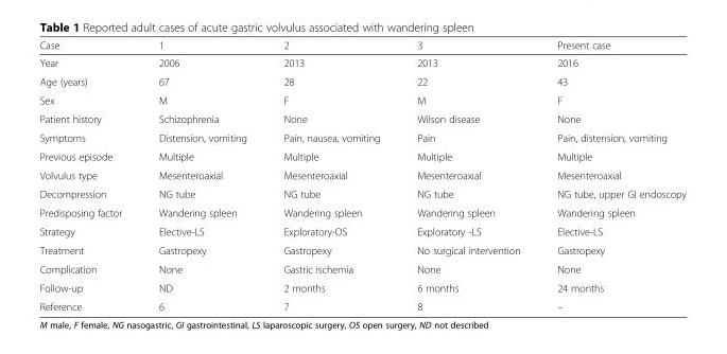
<table><thead><tr><td>Case</td><td>1</td><td>2</td><td>3</td><td>Present case</td></tr></thead><tbody><tr><td>Year</td><td>2006</td><td>2013</td><td>2013</td><td>2016</td></tr><tr><td>Age (years)</td><td>67</td><td>28</td><td>22</td><td>43</td></tr><tr><td>Sex</td><td>M</td><td>F</td><td>M</td><td>F</td></tr><tr><td>Patient history</td><td>Schizophrenia</td><td>None</td><td>Wilson disease</td><td>None</td></tr><tr><td>Symptoms</td><td>Distension, vomiting</td><td>Pain, nausea, vomiting</td><td>Pain</td><td>Pain, distension, vomiting</td></tr><tr><td>Previous episode</td><td>Multiple</td><td>Multiple</td><td>Multiple</td><td>Multiple</td></tr><tr><td>Volvulus type</td><td>Mesenteroaxial</td><td>Mesenteroaxial</td><td>Mesenteroaxial</td><td>Mesenteroaxial</td></tr><tr><td>Decompression</td><td>NG tube</td><td>NG tube</td><td>NG tube</td><td>NG tube, upper GI endoscopy</td></tr><tr><td>Predisposing factor</td><td>Wandering spleen</td><td>Wandering spleen</td><td>Wandering spleen</td><td>Wandering spleen</td></tr><tr><td>Strategy</td><td>Elective-LS</td><td>Exploratory-OS</td><td>Exploratory -LS</td><td>Elective-LS</td></tr><tr><td>Treatment</td><td>Gastropexy</td><td>Gastropexy</td><td>No surgical intervention</td><td>Gastropexy</td></tr><tr><td>Complication</td><td>None</td><td>Gastric ischemia</td><td>None</td><td>None</td></tr><tr><td>Follow-up</td><td>ND</td><td>2 months</td><td>6 months</td><td>24 months</td></tr><tr><td>Reference</td><td>6</td><td>7</td><td>8</td><td>–</td></tr></tbody></table>